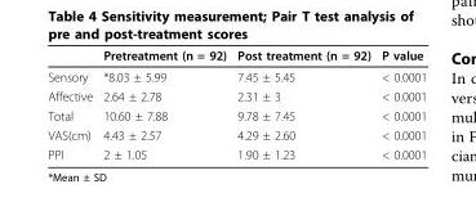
<table><thead><tr><td></td><td>Pretreatment (n = 92)</td><td>Post treatment (n = 92)</td><td>P value</td></tr></thead><tbody><tr><td>Sensory</td><td>*8.03 ± 5.99</td><td>7.45 ± 5.45</td><td>&lt; 0.0001</td></tr><tr><td>Affective</td><td>2.64 ± 2.78</td><td>2.31 ± 3</td><td>&lt; 0.0001</td></tr><tr><td>Total</td><td>10.60 ± 7.88</td><td>9.78 ± 7.45</td><td>&lt; 0.0001</td></tr><tr><td>VAS(cm)</td><td>4.43 ± 2.57</td><td>4.29 ± 2.60</td><td>&lt; 0.0001</td></tr><tr><td>PPI</td><td>2 ± 1.05</td><td>1.90 ± 1.23</td><td>&lt; 0.0001</td></tr></tbody></table>